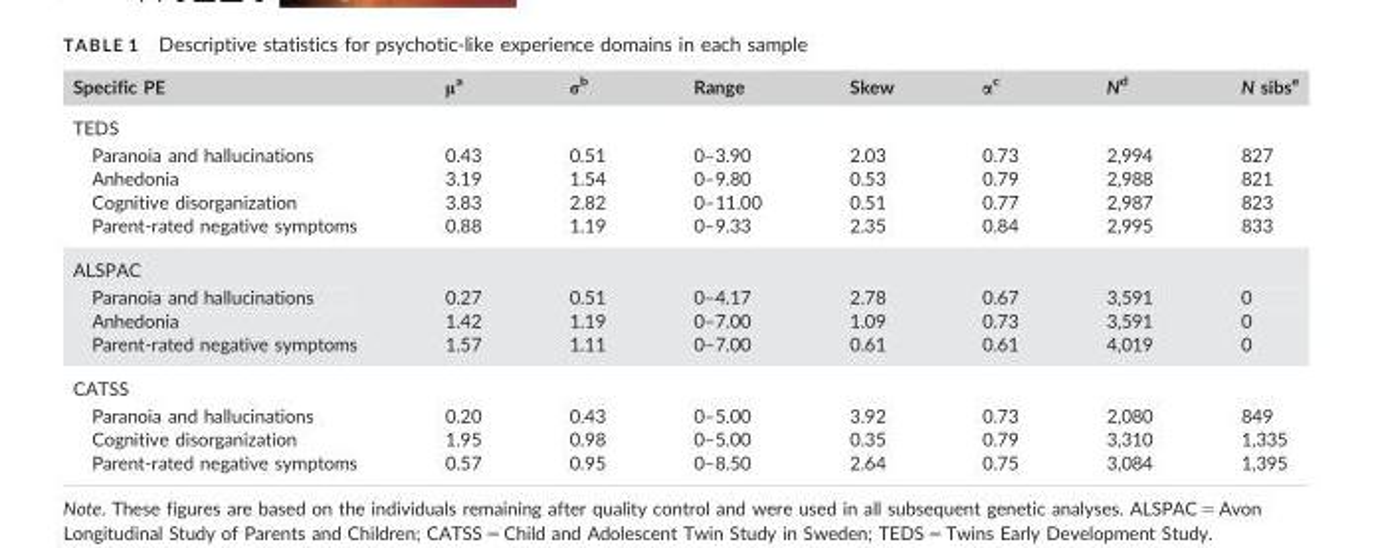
<table><thead><tr><td>Specific PE</td><td>μ<sup>a</sup></td><td>σ<sup>b</sup></td><td>Range</td><td>Skew</td><td>α<sup>c</sup></td><td>Nd</td><td>N sibs<sup>e</sup></td></tr></thead><tbody><tr><td colspan="8">TEDS</td></tr><tr><td>Paranoia and hallucinations</td><td>0.43</td><td>0.51</td><td>0–3.90</td><td>2.03</td><td>0.73</td><td>2,994</td><td>827</td></tr><tr><td>Anhedonia</td><td>3.19</td><td>1.54</td><td>0–9.80</td><td>0.53</td><td>0.79</td><td>2,988</td><td>821</td></tr><tr><td>Cognitive disorganization</td><td>3.83</td><td>2.82</td><td>0–11.00</td><td>0.51</td><td>0.77</td><td>2,987</td><td>823</td></tr><tr><td>Parent-rated negative symptoms</td><td>0.88</td><td>1.19</td><td>0–9.33</td><td>2.35</td><td>0.84</td><td>2,995</td><td>833</td></tr><tr><td colspan="8">ALSPAC</td></tr><tr><td>Paranoia and hallucinations</td><td>0.27</td><td>0.51</td><td>0–4.17</td><td>2.78</td><td>0.67</td><td>3,591</td><td>0</td></tr><tr><td>Anhedonia</td><td>1.42</td><td>1.19</td><td>0–7.00</td><td>1.09</td><td>0.73</td><td>3,591</td><td>0</td></tr><tr><td>Parent-rated negative symptoms</td><td>1.57</td><td>1.11</td><td>0–7.00</td><td>0.61</td><td>0.61</td><td>4,019</td><td>0</td></tr><tr><td colspan="8">CATSS</td></tr><tr><td>Paranoia and hallucinations</td><td>0.20</td><td>0.43</td><td>0–5.00</td><td>3.92</td><td>0.73</td><td>2,080</td><td>849</td></tr><tr><td>Cognitive disorganization</td><td>1.95</td><td>0.98</td><td>0–5.00</td><td>0.35</td><td>0.79</td><td>3,310</td><td>1,335</td></tr><tr><td>Parent-rated negative symptoms</td><td>0.57</td><td>0.95</td><td>0–8.50</td><td>2.64</td><td>0.75</td><td>3,084</td><td>1,395</td></tr></tbody></table>